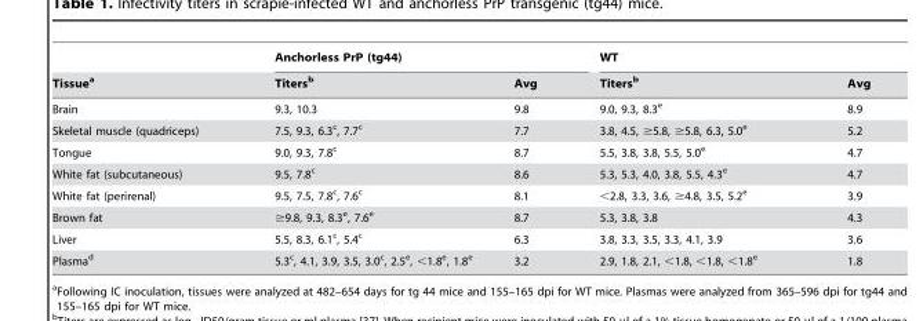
<table><thead><tr><td rowspan="2">Tissue<sup>a</sup></td><td colspan="2">Anchorless PrP (tg44)</td><td colspan="2">WT</td></tr><tr><td>Titers<sup>b</sup></td><td>Avg</td><td>Titers<sup>b</sup></td><td>Avg</td></tr></thead><tbody><tr><td>Brain</td><td>9.3, 10.3</td><td>9.8</td><td>9.0, 9.3, 8.3<sup>e</sup></td><td>8.9</td></tr><tr><td>Skeletal muscle (quadriceps)</td><td>7.5, 9.3, 6.3<sup>c</sup>, 7.7<sup>c</sup></td><td>7.7</td><td>3.8, 4.5, ≥5.8, ≥5.8, 6.3, 5.0<sup>e</sup></td><td>5.2</td></tr><tr><td>Tongue</td><td>9.0, 9.3, 7.8<sup>c</sup></td><td>8.7</td><td>5.5, 3.8, 3.8, 5.5, 5.0<sup>e</sup></td><td>4.7</td></tr><tr><td>White fat (subcutaneous)</td><td>9.5, 7.8<sup>c</sup></td><td>8.6</td><td>5.3, 5.3, 4.0, 3.8, 5.5, 4.3<sup>e</sup></td><td>4.7</td></tr><tr><td>White fat (perirenal)</td><td>9.5, 7.5, 7.8<sup>c</sup>, 7.6<sup>c</sup></td><td>8.1</td><td>&lt;2.8, 3.3, 3.6, ≥4.8, 3.5, 5.2<sup>e</sup></td><td>3.9</td></tr><tr><td>Brown fat</td><td>≥9.8, 9.3, 8.3<sup>e</sup>, 7.6<sup>e</sup></td><td>8.7</td><td>5.3, 3.8, 3.8</td><td>4.3</td></tr><tr><td>Liver</td><td>5.5, 8.3, 6.1<sup>c</sup>, 5.4<sup>c</sup></td><td>6.3</td><td>3.8, 3.3, 3.5, 3.3, 4.1, 3.9</td><td>3.6</td></tr><tr><td>Plasma<sup>d</sup></td><td>5.3<sup>c</sup>, 4.1, 3.9, 3.5, 3.0<sup>c</sup>, 2.5<sup>e</sup>, &lt;1.8<sup>e</sup>, 1.8<sup>e</sup></td><td>3.2</td><td>2.9, 1.8, 2.1, &lt;1.8, &lt;1.8, &lt;1.8<sup>e</sup></td><td>1.8</td></tr></tbody></table>